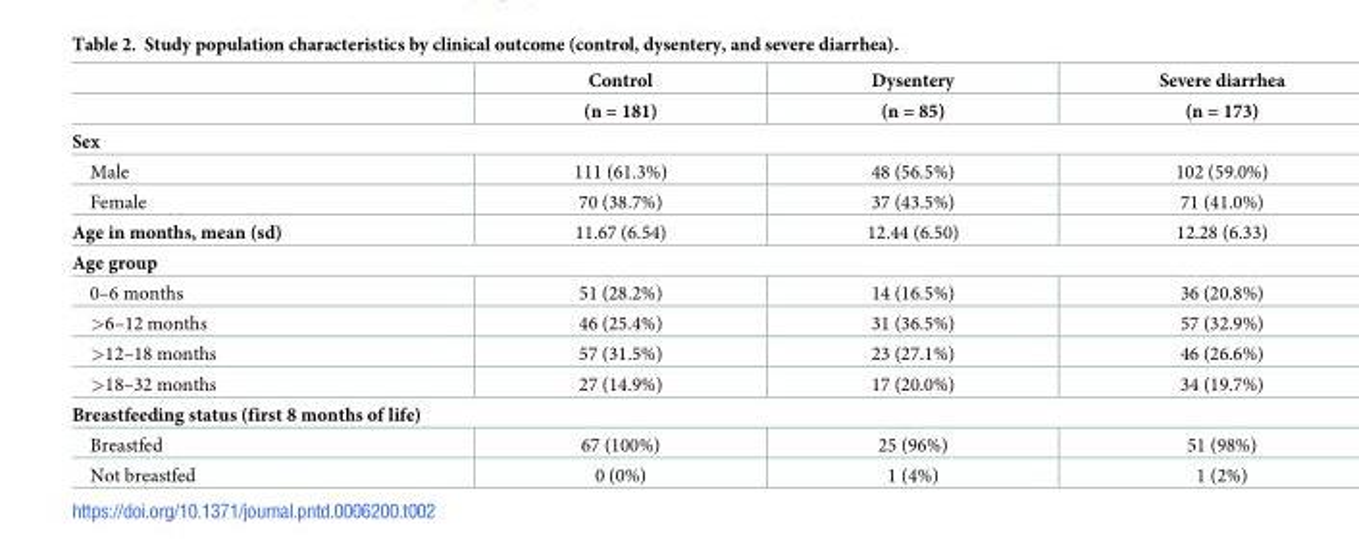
<table><thead><tr><td rowspan="2"></td><td rowspan="2">Control (n = 181)</td><td rowspan="2">Dysentery (n = 85)</td><td rowspan="2">Severe diarrhea (n = 173)</td></tr><tr></tr></thead><tbody><tr><td colspan="4">Sex</td></tr><tr><td>Male</td><td>111 (61.3%)</td><td>48 (56.5%)</td><td>102 (59.0%)</td></tr><tr><td>Female</td><td>70 (38.7%)</td><td>37 (43.5%)</td><td>71 (41.0%)</td></tr><tr><td>Age in months, mean (sd)</td><td>11.67 (6.54)</td><td>12.44 (6.50)</td><td>12.28 (6.33)</td></tr><tr><td colspan="4">Age group</td></tr><tr><td>0–6 months</td><td>51 (28.2%)</td><td>14 (16.5%)</td><td>36 (20.8%)</td></tr><tr><td>&gt;6–12 months</td><td>46 (25.4%)</td><td>31 (36.5%)</td><td>57 (32.9%)</td></tr><tr><td>&gt;12–18 months</td><td>57 (31.5%)</td><td>23 (27.1%)</td><td>46 (26.6%)</td></tr><tr><td>&gt;18–32 months</td><td>27 (14.9%)</td><td>17 (20.0%)</td><td>34 (19.7%)</td></tr><tr><td colspan="4">Breastfeeding status (first 8 months of life)</td></tr><tr><td>Breastfed</td><td>67 (100%)</td><td>25 (96%)</td><td>51 (98%)</td></tr><tr><td>Not breastfed</td><td>0 (0%)</td><td>1 (4%)</td><td>1 (2%)</td></tr></tbody></table>